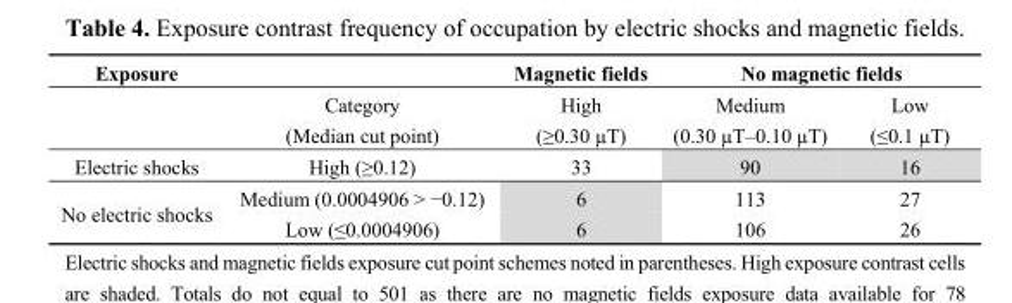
<table><thead><tr><td rowspan="2">Exposure</td><td rowspan="2">Category (Median cut point)</td><td rowspan="2">Magnetic fields High (≥0.30 µT)</td><td colspan="2">No magnetic fields</td></tr><tr><td>Medium (0.30 µT–0.10 µT)</td><td>Low (≤0.1 µT)</td></tr></thead><tbody><tr><td>Electric shocks</td><td>High (≥0.12)</td><td>33</td><td>90</td><td>16</td></tr><tr><td rowspan="2">No electric shocks</td><td>Medium (0.0004906 &gt; −0.12)</td><td>6</td><td>113</td><td>27</td></tr><tr><td>Low (≤0.0004906)</td><td>6</td><td>106</td><td>26</td></tr></tbody></table>